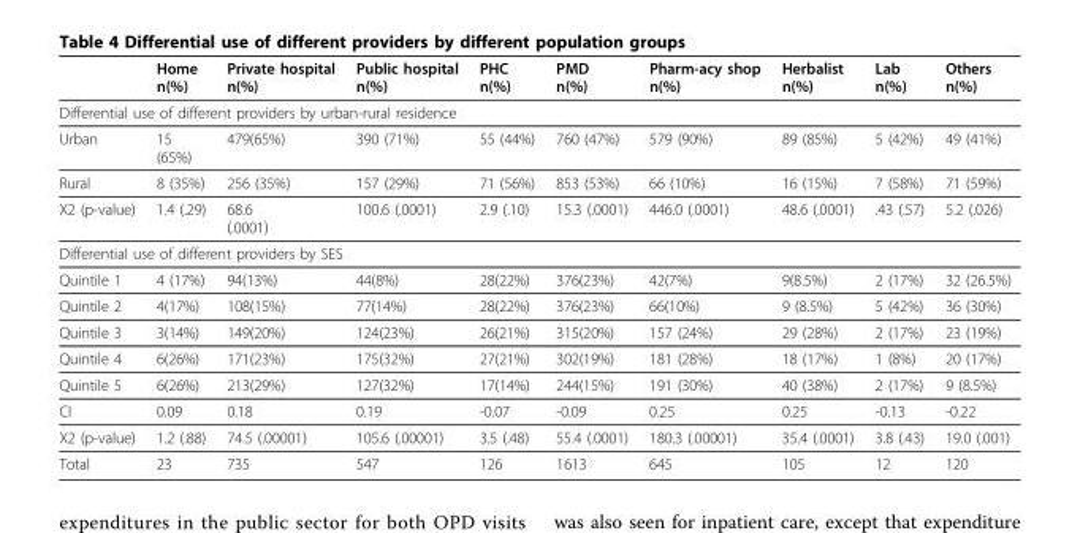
<table><thead><tr><td></td><td>Home n(%)</td><td>Private hospital n(%)</td><td>Public hospital n(%)</td><td>PHC n(%)</td><td>PMD n(%)</td><td>Pharm-acy shop n(%)</td><td>Herbalist n(%)</td><td>Lab n(%)</td><td>Others n(%)</td></tr></thead><tbody><tr><td colspan="10">Differential use of different providers by urban-rural residence</td></tr><tr><td>Urban</td><td>15 (65%)</td><td>479(65%)</td><td>390 (71%)</td><td>55 (44%)</td><td>760 (47%)</td><td>579 (90%)</td><td>89 (85%)</td><td>5 (42%)</td><td>49 (41%)</td></tr><tr><td>Rural</td><td>8 (35%)</td><td>256 (35%)</td><td>157 (29%)</td><td>71 (56%)</td><td>853 (53%)</td><td>66 (10%)</td><td>16 (15%)</td><td>7 (58%)</td><td>71 (59%)</td></tr><tr><td>X2 (p-value)</td><td>1.4 (.29)</td><td>68.6 (.0001)</td><td>100.6 (.0001)</td><td>2.9 (.10)</td><td>15.3 (.0001)</td><td>446.0 (.0001)</td><td>48.6 (.0001)</td><td>.43 (.57)</td><td>5.2 (.026)</td></tr><tr><td colspan="10">Differential use of different providers by SES</td></tr><tr><td>Quintile 1</td><td>4 (17%)</td><td>94(13%)</td><td>44(8%)</td><td>28(22%)</td><td>376(23%)</td><td>42(7%)</td><td>9(8.5%)</td><td>2 (17%)</td><td>32 (26.5%)</td></tr><tr><td>Quintile 2</td><td>4(17%)</td><td>108(15%)</td><td>77(14%)</td><td>28(22%)</td><td>376(23%)</td><td>66(10%)</td><td>9 (8.5%)</td><td>5 (42%)</td><td>36 (30%)</td></tr><tr><td>Quintile 3</td><td>3(14%)</td><td>149(20%)</td><td>124(23%)</td><td>26(21%)</td><td>315(20%)</td><td>157 (24%)</td><td>29 (28%)</td><td>2 (17%)</td><td>23 (19%)</td></tr><tr><td>Quintile 4</td><td>6(26%)</td><td>171(23%)</td><td>175(32%)</td><td>27(21%)</td><td>302(19%)</td><td>181 (28%)</td><td>18 (17%)</td><td>1 (8%)</td><td>20 (17%)</td></tr><tr><td>Quintile 5</td><td>6(26%)</td><td>213(29%)</td><td>127(32%)</td><td>17(14%)</td><td>244(15%)</td><td>191 (30%)</td><td>40 (38%)</td><td>2 (17%)</td><td>9 (8.5%)</td></tr><tr><td>CI</td><td>0.09</td><td>0.18</td><td>0.19</td><td>-0.07</td><td>-0.09</td><td>0.25</td><td>0.25</td><td>-0.13</td><td>-0.22</td></tr><tr><td>X2 (p-value)</td><td>1.2 (.88)</td><td>74.5 (.00001)</td><td>105.6 (.00001)</td><td>3.5 (.48)</td><td>55.4 (.0001)</td><td>180.3 (.00001)</td><td>35.4 (.0001)</td><td>3.8 (.43)</td><td>19.0 (.001)</td></tr><tr><td>Total</td><td>23</td><td>735</td><td>547</td><td>126</td><td>1613</td><td>645</td><td>105</td><td>12</td><td>120</td></tr></tbody></table>